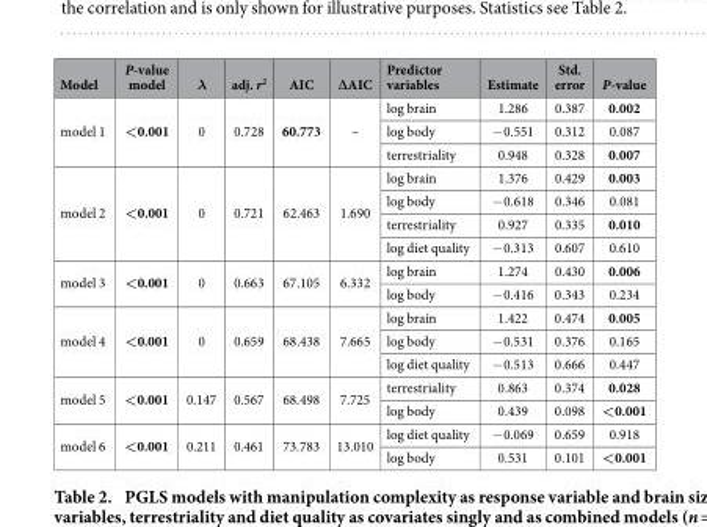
<table><thead><tr><td>Model</td><td>P-value model</td><td>λ</td><td>adj. r<sup>2</sup></td><td>AIC</td><td>∆AIC</td><td>Predictor variables</td><td>Estimate</td><td>Std. error</td><td>P-value</td></tr></thead><tbody><tr><td rowspan="3">model 1</td><td rowspan="3">&lt;0.001</td><td rowspan="3">0</td><td rowspan="3">0.728</td><td rowspan="3">60.773</td><td rowspan="3">–</td><td>log brain</td><td>1.286</td><td>0.387</td><td>0.002</td></tr><tr><td>log body</td><td>− 0.551</td><td>0.312</td><td>0.087</td></tr><tr><td>terrestriality</td><td>0.948</td><td>0.328</td><td>0.007</td></tr><tr><td rowspan="4">model 2</td><td rowspan="4">&lt;0.001</td><td rowspan="4">0</td><td rowspan="4">0.721</td><td rowspan="4">62.463</td><td rowspan="4">1.690</td><td>log brain</td><td>1.376</td><td>0.429</td><td>0.003</td></tr><tr><td>log body</td><td>− 0.618</td><td>0.346</td><td>0.081</td></tr><tr><td>terrestriality</td><td>0.927</td><td>0.335</td><td>0.010</td></tr><tr><td>log diet quality</td><td>− 0.313</td><td>0.607</td><td>0.610</td></tr><tr><td rowspan="2">model 3</td><td rowspan="2">&lt;0.001</td><td rowspan="2">0</td><td rowspan="2">0.663</td><td rowspan="2">67.105</td><td rowspan="2">6.332</td><td>log brain</td><td>1.274</td><td>0.430</td><td>0.006</td></tr><tr><td>log body</td><td>− 0.416</td><td>0.343</td><td>0.234</td></tr><tr><td rowspan="3">model 4</td><td rowspan="3">&lt;0.001</td><td rowspan="3">0</td><td rowspan="3">0.659</td><td rowspan="3">68.438</td><td rowspan="3">7.665</td><td>log brain</td><td>1.422</td><td>0.474</td><td>0.005</td></tr><tr><td>log body</td><td>− 0.531</td><td>0.376</td><td>0.165</td></tr><tr><td>log diet quality</td><td>− 0.513</td><td>0.666</td><td>0.447</td></tr><tr><td rowspan="2">model 5</td><td rowspan="2">&lt;0.001</td><td rowspan="2">0.147</td><td rowspan="2">0.567</td><td rowspan="2">68.498</td><td rowspan="2">7.725</td><td>terrestriality</td><td>0.863</td><td>0.374</td><td>0.028</td></tr><tr><td>log body</td><td>0.439</td><td>0.098</td><td>&lt;0.001</td></tr><tr><td rowspan="2">model 6</td><td rowspan="2">&lt;0.001</td><td rowspan="2">0.211</td><td rowspan="2">0.461</td><td rowspan="2">73.783</td><td rowspan="2">13.010</td><td>log diet quality</td><td>− 0.069</td><td>0.659</td><td>0.918</td></tr><tr><td>log body</td><td>0.531</td><td>0.101</td><td>&lt;0.001</td></tr></tbody></table>